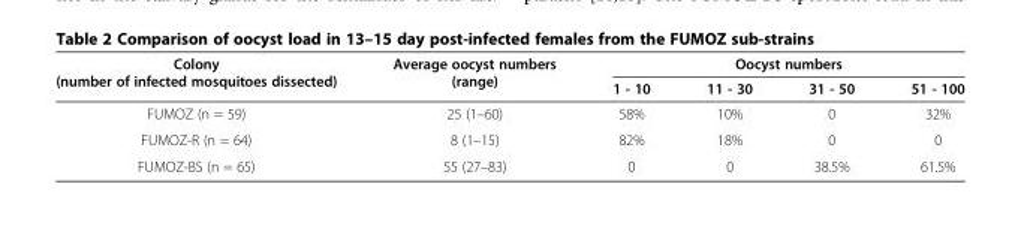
<table><thead><tr><td rowspan="2">Colony (number of infected mosquitoes dissected)</td><td rowspan="2">Average oocyst numbers (range)</td><td colspan="4">Oocyst numbers</td></tr><tr><td>1 - 10</td><td>11 - 30</td><td>31 - 50</td><td>51 - 100</td></tr></thead><tbody><tr><td>FUMOZ (n = 59)</td><td>25 (1–60)</td><td>58%</td><td>10%</td><td>0</td><td>32%</td></tr><tr><td>FUMOZ-R (n = 64)</td><td>8 (1–15)</td><td>82%</td><td>18%</td><td>0</td><td>0</td></tr><tr><td>FUMOZ-BS (n = 65)</td><td>55 (27–83)</td><td>0</td><td>0</td><td>38.5%</td><td>61.5%</td></tr></tbody></table>